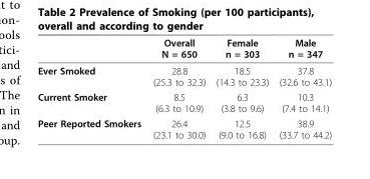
<table><thead><tr><td></td><td>Overall N = 650</td><td>Female n = 303</td><td>Male n = 347</td></tr></thead><tbody><tr><td>Ever Smoked</td><td>28.8 (25.3 to 32.3)</td><td>18.5 (14.3 to 23.3)</td><td>37.8 (32.6 to 43.1)</td></tr><tr><td>Current Smoker</td><td>8.5 (6.3 to 10.9)</td><td>6.3 (3.8 to 9.6)</td><td>10.3 (7.4 to 14.1)</td></tr><tr><td>Peer Reported Smokers</td><td>26.4 (23.1 to 30.0)</td><td>12.5 (9.0 to 16.8)</td><td>38.9 (33.7 to 44.2)</td></tr></tbody></table>